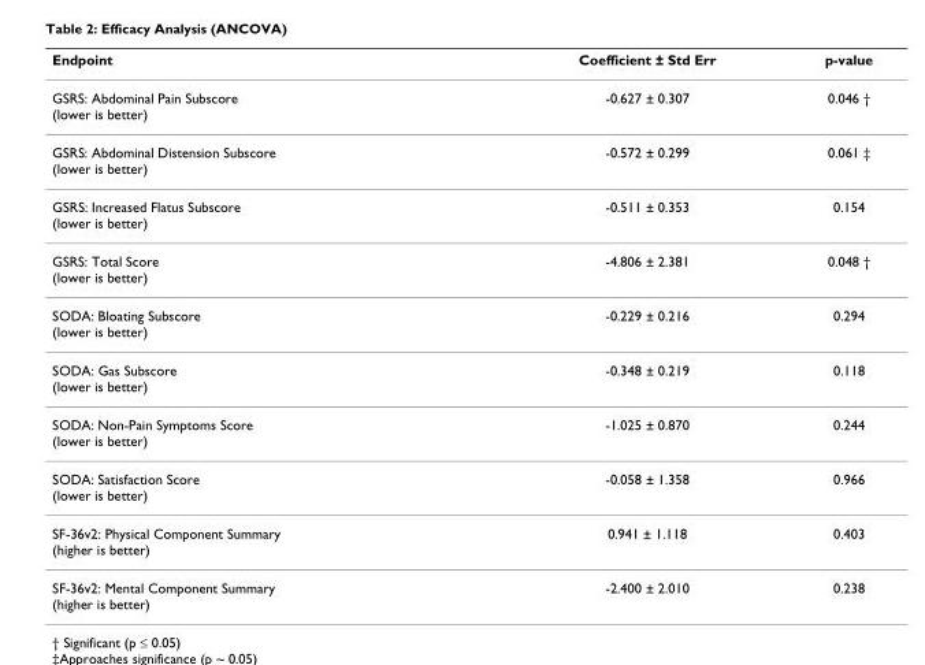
<table><thead><tr><td>Endpoint</td><td>Coefficient ± Std Err</td><td>p-value</td></tr></thead><tbody><tr><td>GSRS: Abdominal Pain Subscore (lower is better)</td><td>-0.627 ± 0.307</td><td>0.046 †</td></tr><tr><td>GSRS: Abdominal Distension Subscore (lower is better)</td><td>-0.572 ± 0.299</td><td>0.061 ‡</td></tr><tr><td>GSRS: Increased Flatus Subscore (lower is better)</td><td>-0.511 ± 0.353</td><td>0.154</td></tr><tr><td>GSRS: Total Score (lower is better)</td><td>-4.806 ± 2.381</td><td>0.048 †</td></tr><tr><td>SODA: Bloating Subscore (lower is better)</td><td>-0.229 ± 0.216</td><td>0.294</td></tr><tr><td>SODA: Gas Subscore (lower is better)</td><td>-0.348 ± 0.219</td><td>0.118</td></tr><tr><td>SODA: Non-Pain Symptoms Score (lower is better)</td><td>-1.025 ± 0.870</td><td>0.244</td></tr><tr><td>SODA: Satisfaction Score (lower is better)</td><td>-0.058 ± 1.358</td><td>0.966</td></tr><tr><td>SF-36v2: Physical Component Summary (higher is better)</td><td>0.941 ± 1.118</td><td>0.403</td></tr><tr><td>SF-36v2: Mental Component Summary (higher is better)</td><td>-2.400 ± 2.010</td><td>0.238</td></tr></tbody></table>